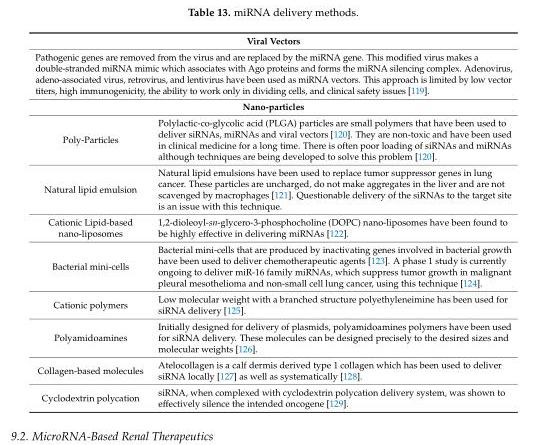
<table><tbody><tr><td colspan="2">Viral Vectors</td></tr><tr><td colspan="2">Pathogenic genes are removed from the virus and are replaced by the miRNA gene. This modified virus makes a double-stranded miRNA mimic which associates with Ago proteins and forms the miRNA silencing complex. Adenovirus, adeno-associated virus, retrovirus, and lentivirus have been used as miRNA vectors. This approach is limited by low vector titers, high immunogenicity, the ability to work only in dividing cells, and clinical safety issues [119].</td></tr><tr><td colspan="2">Nano-particles</td></tr><tr><td>Poly-Particles</td><td>Polylactic-co-glycolic acid (PLGA) particles are small polymers that have been used to deliver siRNAs, miRNAs and viral vectors [120]. They are non-toxic and have been used in clinical medicine for a long time. There is often poor loading of siRNAs and miRNAs although techniques are being developed to solve this problem [120].</td></tr><tr><td>Natural lipid emulsion</td><td>Natural lipid emulsions have been used to replace tumor suppressor genes in lung cancer. These particles are uncharged, do not make aggregates in the liver and are not scavenged by macrophages [121]. Questionable delivery of the siRNAs to the target site is an issue with this technique.</td></tr><tr><td>Cationic Lipid-based nano-liposomes</td><td>1,2-dioleoyl-sn-glycero-3-phosphocholine (DOPC) nano-liposomes have been found to be highly effective in delivering miRNAs [122].</td></tr><tr><td>Bacterial mini-cells</td><td>Bacterial mini-cells that are produced by inactivating genes involved in bacterial growth have been used to deliver chemotherapeutic agents [123]. A phase 1 study is currently ongoing to deliver miR-16 family miRNAs, which suppress tumor growth in malignant pleural mesothelioma and non-small cell lung cancer, using this technique [124].</td></tr><tr><td>Cationic polymers</td><td>Low molecular weight with a branched structure polyethyleneimine has been used for siRNA delivery [125].</td></tr><tr><td>Polyamidoamines</td><td>Initially designed for delivery of plasmids, polyamidoamines polymers have been used for siRNA delivery. These molecules can be designed precisely to the desired sizes and molecular weights [126].</td></tr><tr><td>Collagen-based molecules</td><td>Atelocollagen is a calf dermis derived type 1 collagen which has been used to deliver siRNA locally [127] as well as systematically [128].</td></tr><tr><td>Cyclodextrin polycation</td><td>siRNA, when complexed with cyclodextrin polycation delivery system, was shown to effectively silence the intended oncogene [129].</td></tr></tbody></table>